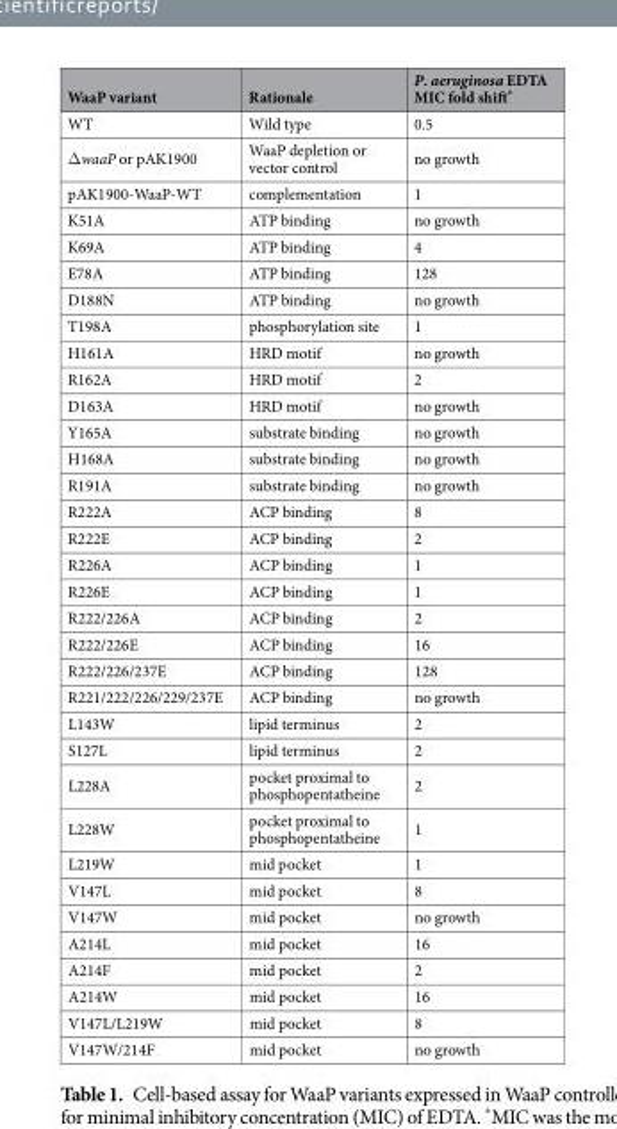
<table><thead><tr><td>WaaP variant</td><td>Rationale</td><td>P. aeruginosa EDTA MIC fold shift*</td></tr></thead><tbody><tr><td>WT</td><td>Wild type</td><td>0.5</td></tr><tr><td>ΔwaaP or pAK1900</td><td>WaaP depletion or vector control</td><td>no growth</td></tr><tr><td>pAK1900-WaaP-WT</td><td>complementation</td><td>1</td></tr><tr><td>K51A</td><td>ATP binding</td><td>no growth</td></tr><tr><td>K69A</td><td>ATP binding</td><td>4</td></tr><tr><td>E78A</td><td>ATP binding</td><td>128</td></tr><tr><td>D188N</td><td>ATP binding</td><td>no growth</td></tr><tr><td>T198A</td><td>phosphorylation site</td><td>1</td></tr><tr><td>H161A</td><td>HRD motif</td><td>no growth</td></tr><tr><td>R162A</td><td>HRD motif</td><td>2</td></tr><tr><td>D163A</td><td>HRD motif</td><td>no growth</td></tr><tr><td>Y165A</td><td>substrate binding</td><td>no growth</td></tr><tr><td>H168A</td><td>substrate binding</td><td>no growth</td></tr><tr><td>R191A</td><td>substrate binding</td><td>no growth</td></tr><tr><td>R222A</td><td>ACP binding</td><td>8</td></tr><tr><td>R222E</td><td>ACP binding</td><td>2</td></tr><tr><td>R226A</td><td>ACP binding</td><td>1</td></tr><tr><td>R226E</td><td>ACP binding</td><td>1</td></tr><tr><td>R222/226A</td><td>ACP binding</td><td>2</td></tr><tr><td>R222/226E</td><td>ACP binding</td><td>16</td></tr><tr><td>R222/226/237E</td><td>ACP binding</td><td>128</td></tr><tr><td>R221/222/226/229/237E</td><td>ACP binding</td><td>no growth</td></tr><tr><td>L143W</td><td>lipid terminus</td><td>2</td></tr><tr><td>S127L</td><td>lipid terminus</td><td>2</td></tr><tr><td>L228A</td><td>pocket proximal to phosphopentatheine</td><td>2</td></tr><tr><td>L228W</td><td>pocket proximal to phosphopentatheine</td><td>1</td></tr><tr><td>L219W</td><td>mid pocket</td><td>1</td></tr><tr><td>V147L</td><td>mid pocket</td><td>8</td></tr><tr><td>V147W</td><td>mid pocket</td><td>no growth</td></tr><tr><td>A214L</td><td>mid pocket</td><td>16</td></tr><tr><td>A214F</td><td>mid pocket</td><td>2</td></tr><tr><td>A214W</td><td>mid pocket</td><td>16</td></tr><tr><td>V147L/L219W</td><td>mid pocket</td><td>8</td></tr><tr><td>V147W/214F</td><td>mid pocket</td><td>no growth</td></tr></tbody></table>